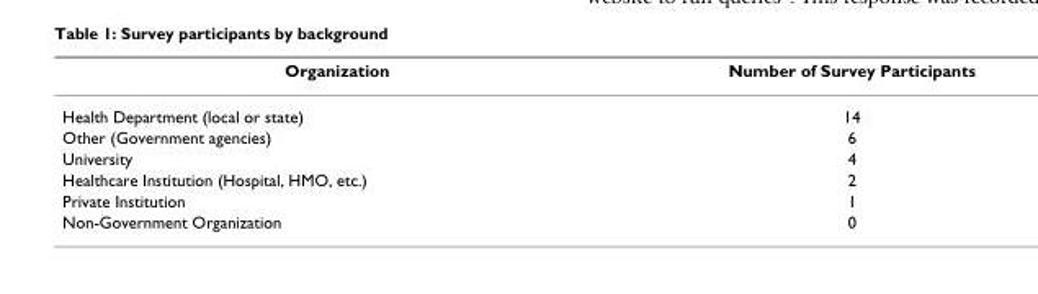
<table><thead><tr><td>Organization</td><td>Number of Survey Participants</td></tr></thead><tbody><tr><td>Health Department (local or state)</td><td>14</td></tr><tr><td>Other (Government agencies)</td><td>6</td></tr><tr><td>University</td><td>4</td></tr><tr><td>Healthcare Institution (Hospital, HMO, etc.)</td><td>2</td></tr><tr><td>Private Institution</td><td>1</td></tr><tr><td>Non-Government Organization</td><td>0</td></tr></tbody></table>